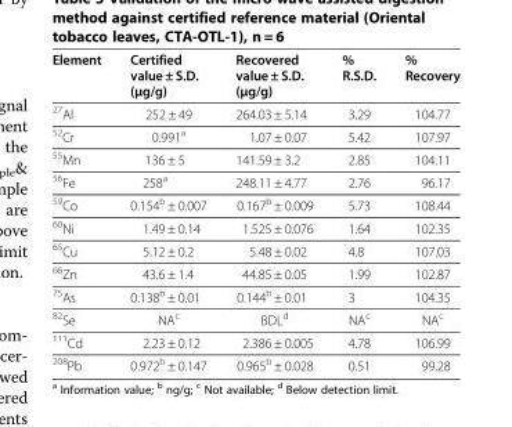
<table><thead><tr><td>Element</td><td>Certified value ± S.D. (μg/g)</td><td>Recovered value ± S.D. (μg/g)</td><td>% R.S.D.</td><td>% Recovery</td></tr></thead><tbody><tr><td><sup>27</sup>Al</td><td>252 ± 49</td><td>264.03 ± 5.14</td><td>3.29</td><td>104.77</td></tr><tr><td><sup>52</sup>Cr</td><td>0.991<sup>a</sup></td><td>1.07 ± 0.07</td><td>5.42</td><td>107.97</td></tr><tr><td><sup>55</sup>Mn</td><td>136 ± 5</td><td>141.59 ± 3.2</td><td>2.85</td><td>104.11</td></tr><tr><td><sup>56</sup>Fe</td><td>258<sup>a</sup></td><td>248.11 ± 4.77</td><td>2.76</td><td>96.17</td></tr><tr><td><sup>59</sup>Co</td><td>0.154<sup>b</sup> ± 0.007</td><td>0.167<sup>b</sup> ± 0.009</td><td>5.73</td><td>108.44</td></tr><tr><td><sup>60</sup>Ni</td><td>1.49 ± 0.14</td><td>1.525 ± 0.076</td><td>1.64</td><td>102.35</td></tr><tr><td><sup>65</sup>Cu</td><td>5.12 ± 0.2</td><td>5.48 ± 0.02</td><td>4.8</td><td>107.03</td></tr><tr><td><sup>66</sup>Zn</td><td>43.6 ± 1.4</td><td>44.85 ± 0.05</td><td>1.99</td><td>102.87</td></tr><tr><td><sup>75</sup>As</td><td>0.138<sup>b</sup> ± 0.01</td><td>0.144<sup>b</sup> ± 0.01</td><td>3</td><td>104.35</td></tr><tr><td><sup>82</sup>Se</td><td>NA<sup>c</sup></td><td>BDL<sup>d</sup></td><td>NA<sup>c</sup></td><td>NA<sup>c</sup></td></tr><tr><td><sup>111</sup>Cd</td><td>2.23 ± 0.12</td><td>2.386 ± 0.005</td><td>4.78</td><td>106.99</td></tr><tr><td><sup>208</sup>Pb</td><td>0.972<sup>b</sup> ± 0.147</td><td>0.965<sup>b</sup> ± 0.028</td><td>0.51</td><td>99.28</td></tr></tbody></table>